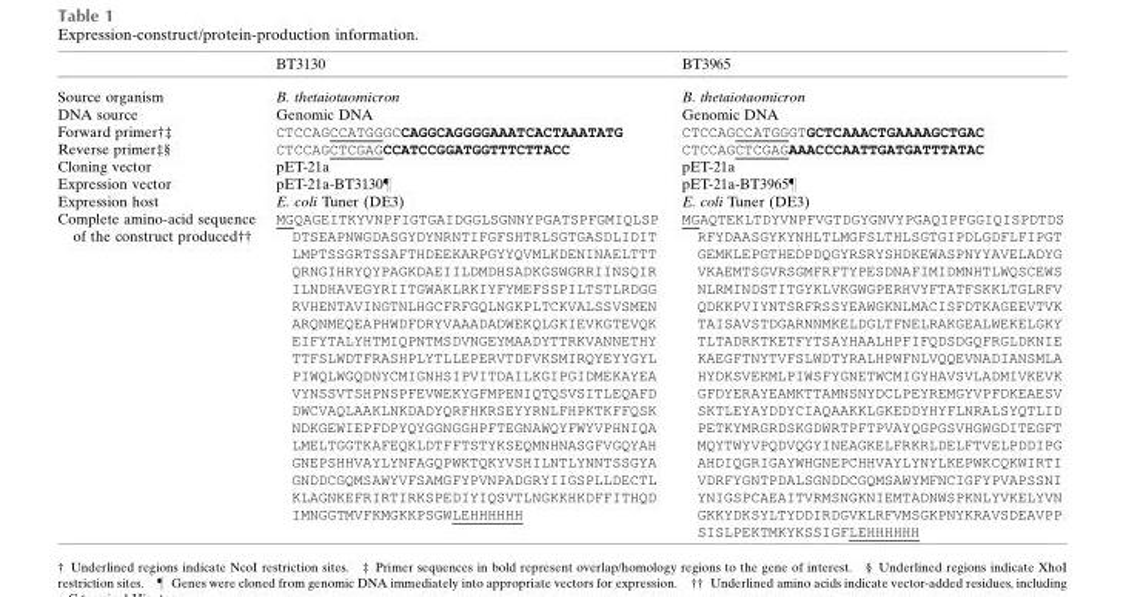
<table><thead><tr><td></td><td>BT3130</td><td>BT3965</td></tr></thead><tbody><tr><td>Source organism</td><td>B. thetaiotaomicron</td><td>B. thetaiotaomicron</td></tr><tr><td>DNA source</td><td>Genomic DNA</td><td>Genomic DNA</td></tr><tr><td>Forward primer†‡</td><td>CTCCAGCCATGGGCCAGGCAGGGGAAATCACTAAATATG</td><td>CTCCAGCCATGGGTGCTCAAACTGAAAAGCTGAC</td></tr><tr><td>Reverse primer‡§</td><td>CTCCAGCTCGAGCCATCCGGATGGTTTCTTACC</td><td>CTCCAGCTCGAGAAACCCAATTGATGATTTATAC</td></tr><tr><td>Cloning vector</td><td>pET-21a</td><td>pET-21a</td></tr><tr><td>Expression vector</td><td>pET-21a-BT3130¶</td><td>pET-21a-BT3965¶</td></tr><tr><td>Expression host</td><td>E. coli Tuner (DE3)</td><td>E. coli Tuner (DE3)</td></tr><tr><td>Complete amino-acid sequence of the construct produced††</td><td>MGQAGEITKYVNPFIGTGAIDGGLSGNNYPGATSPFGMIQLSP DTSEAPNWGDASGYDYNRNTIFGFSHTRLSGTGASDLIDIT LMPTSSGRTSSAFTHDEEKARPGYYQVMLKDENINAELTTT QRNGIHRYQYPAGKDAEIILDMDHSADKGSWGRRIINSQIR ILNDHAVEGYRIITGWAKLRKIYFYMEFSSPILTSTLRDGG RVHENTAVINGTNLHGCFRFGQLNGKPLTCKVALSSVSMEN ARQNMEQEAPHWDFDRYVAAADADWEKQLGKIEVKGTEVQK EIFYTALYHTMIQPNTMSDVNGEYMAADYTTRKVANNETHY TTFSLWDTFRASHPLYTLLEPERVTDFVKSMIRQYEYYGYL PIWQLWGQDNYCMIGNHSIPVITDAILKGIPGIDMEKAYEA VYNSSVTSHPNSPFEVWEKYGFMPENIQTQSVSITLEQAFD DWCVAQLAAKLNKDADYQRFHKRSEYYRNLFHPKTKFFQSK NDKGEWIEPFDPYQYGGNGGHPFTEGNAWQYFWYVPHNIQA LMELTGGTKAFEQKLDTFFTSTYKSEQMNHNASGFVGQYAH GNEPSHHVAYLYNFAGQPWKTQKYVSHILNTLYNNTSSGYA GNDDCGQMSAWYVFSAMGFYPVNPADGRYIIGSPLLDECTL KLAGNKEFRIRTIRKSPEDIYIQSVTLNGKKHKDFFITHQD IMNGGTMVFKMGKKPSGWLEHHHHHH</td><td>MGAQTEKLTDYVNPFVGTDGYGNVYPGAQIPFGGIQISPDTDS RFYDAASGYKYNHLTLMGFSLTHLSGTGIPDLGDFLFIPGT GEMKLEPGTHEDPDQGYRSRYSHDKEWASPNYYAVELADYG VKAEMTSGVRSGMFRFTYPESDNAFIMIDMNHTLWQSCEWS NLRMINDSTITGYKLVKGWGPERHVYFTATFSKKLTGLRFV QDKKPVIYNTSRFRSSYEAWGKNLMACISFDTKAGEEVTVK TAISAVSTDGARNNMKELDGLTFNELRAKGEALWEKELGKY TLTADRKTKETFYTSAYHAALHPFIFQDSDGQFRGLDKNIE KAEGFTNYTVFSLWDTYRALHPWFNLVQQEVNADIANSMLA HYDKSVEKMLPIWSFYGNETWCMIGYHAVSVLADMIVKEVK GFDYERAYEAMKTTAMNSNYDCLPEYREMGYVPFDKEAESV SKTLEYAYDDYCIAQAAKKLGKEDDYHYFLNRALSYQTLID PETKYMRGRDSKGDWRTPFTPVAYQGPGSVHGWGDITEGFT MQYTWYVPQDVQGYINEAGKELFRKRLDELFTVELPDDIPG AHDIQGRIGAYWHGNEPCHHVAYLYNYLKEPWKCQKWIRTI VDRFYGNTPDALSGNDDCGQMSAWYMFNCIGFYPVAPSSNI YNIGSPCAEAITVRMSNGKNIEMTADNWSPKNLYVKELYVN GKKYDKSYLTYDDIRDGVKLRFVMSGKPNYKRAVSDEAVPP SISLPEKTMKYKSSIGFLEHHHHHH</td></tr></tbody></table>